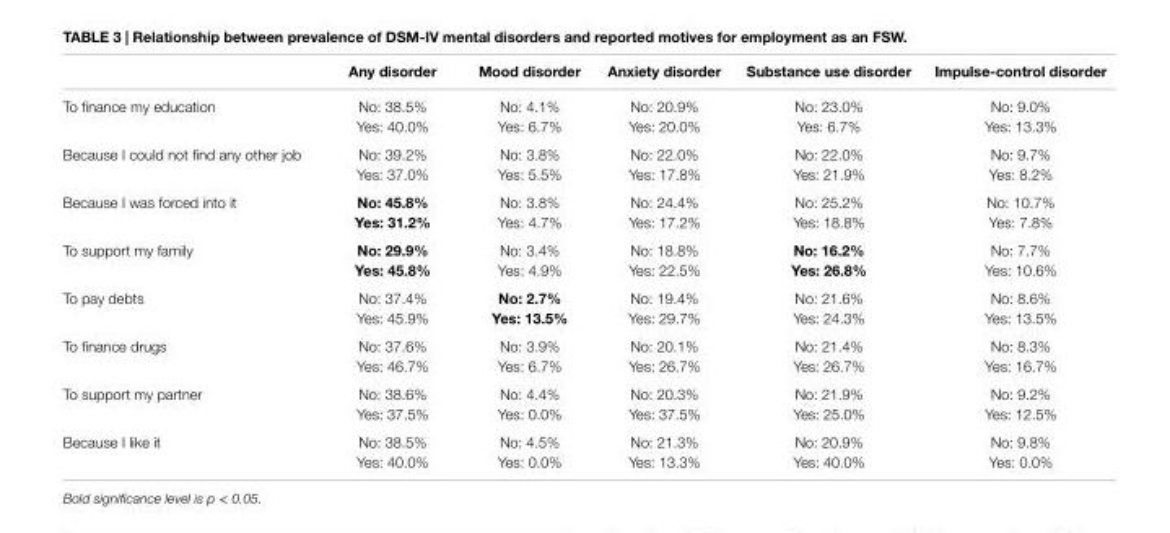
<table><thead><tr><td></td><td>any disorder</td><td>Mood disorder</td><td>anxiety disorder</td><td>substance use disorder</td><td>impulse-control disorder</td></tr></thead><tbody><tr><td rowspan="2">To finance my education</td><td>No: 38.5%</td><td>No: 4.1%</td><td>No: 20.9%</td><td>No: 23.0%</td><td>No: 9.0%</td></tr><tr><td>Yes: 40.0%</td><td>Yes: 6.7%</td><td>Yes: 20.0%</td><td>Yes: 6.7%</td><td>Yes: 13.3%</td></tr><tr><td rowspan="2">Because I could not find any other job</td><td>No: 39.2%</td><td>No: 3.8%</td><td>No: 22.0%</td><td>No: 22.0%</td><td>No: 9.7%</td></tr><tr><td>Yes: 37.0%</td><td>Yes: 5.5%</td><td>Yes: 17.8%</td><td>Yes: 21.9%</td><td>Yes: 8.2%</td></tr><tr><td rowspan="2">Because I was forced into it</td><td>no: 45.8%</td><td>No: 3.8%</td><td>No: 24.4%</td><td>No: 25.2%</td><td>No: 10.7%</td></tr><tr><td>Yes: 31.2%</td><td>Yes: 4.7%</td><td>Yes: 17.2%</td><td>Yes: 18.8%</td><td>Yes: 7.8%</td></tr><tr><td rowspan="2">To support my family</td><td>no: 29.9%</td><td>No: 3.4%</td><td>No: 18.8%</td><td>no: 16.2%</td><td>No: 7.7%</td></tr><tr><td>Yes: 45.8%</td><td>Yes: 4.9%</td><td>Yes: 22.5%</td><td>Yes: 26.8%</td><td>Yes: 10.6%</td></tr><tr><td rowspan="2">To pay debts</td><td>No: 37.4%</td><td>no: 2.7%</td><td>No: 19.4%</td><td>No: 21.6%</td><td>No: 8.6%</td></tr><tr><td>Yes: 45.9%</td><td>Yes: 13.5%</td><td>Yes: 29.7%</td><td>Yes: 24.3%</td><td>Yes: 13.5%</td></tr><tr><td rowspan="2">To finance drugs</td><td>No: 37.6%</td><td>No: 3.9%</td><td>No: 20.1%</td><td>No: 21.4%</td><td>No: 8.3%</td></tr><tr><td>Yes: 46.7%</td><td>Yes: 6.7%</td><td>Yes: 26.7%</td><td>Yes: 26.7%</td><td>Yes: 16.7%</td></tr><tr><td rowspan="2">To support my partner</td><td>No: 38.6%</td><td>No: 4.4%</td><td>No: 20.3%</td><td>No: 21.9%</td><td>No: 9.2%</td></tr><tr><td>Yes: 37.5%</td><td>Yes: 0.0%</td><td>Yes: 37.5%</td><td>Yes: 25.0%</td><td>Yes: 12.5%</td></tr><tr><td rowspan="2">Because I like it</td><td>No: 38.5%</td><td>No: 4.5%</td><td>No: 21.3%</td><td>No: 20.9%</td><td>No: 9.8%</td></tr><tr><td>Yes: 40.0%</td><td>Yes: 0.0%</td><td>Yes: 13.3%</td><td>Yes: 40.0%</td><td>Yes: 0.0%</td></tr></tbody></table>